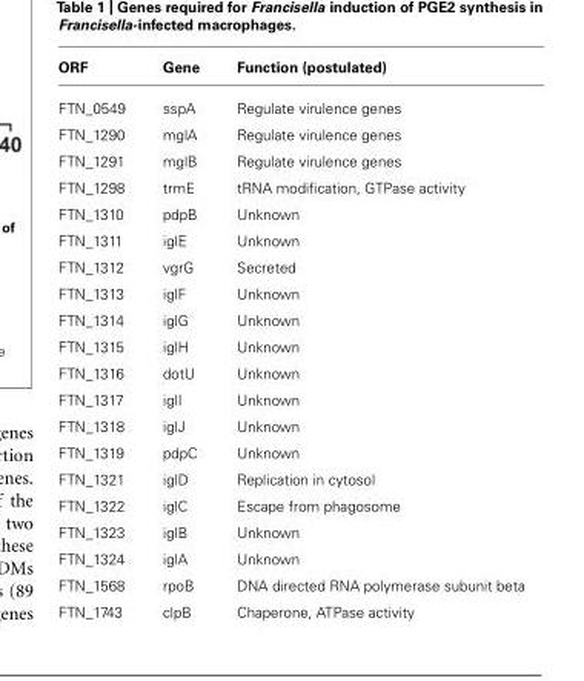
<table><thead><tr><td>ORF</td><td>Gene</td><td>Function (postulated)</td></tr></thead><tbody><tr><td>FTN_0549</td><td>sspA</td><td>Regulate virulence genes</td></tr><tr><td>FTN_1290</td><td>mglA</td><td>Regulate virulence genes</td></tr><tr><td>FTN_1291</td><td>mglB</td><td>Regulate virulence genes</td></tr><tr><td>FTN_1298</td><td>trmE</td><td>tRNA modification, GTPase activity</td></tr><tr><td>FTN_1310</td><td>pdpB</td><td>Unknown</td></tr><tr><td>FTN_1311</td><td>iglE</td><td>Unknown</td></tr><tr><td>FTN_1312</td><td>vgrG</td><td>Secreted</td></tr><tr><td>FTN_1313</td><td>iglF</td><td>Unknown</td></tr><tr><td>FTN_1314</td><td>iglG</td><td>Unknown</td></tr><tr><td>FTN_1315</td><td>iglH</td><td>Unknown</td></tr><tr><td>FTN_1316</td><td>dotU</td><td>Unknown</td></tr><tr><td>FTN_1317</td><td>iglI</td><td>Unknown</td></tr><tr><td>FTN_1318</td><td>iglJ</td><td>Unknown</td></tr><tr><td>FTN_1319</td><td>pdpC</td><td>Unknown</td></tr><tr><td>FTN_1321</td><td>iglD</td><td>Replication in cytosol</td></tr><tr><td>FTN_1322</td><td>iglC</td><td>Escape from phagosome</td></tr><tr><td>FTN_1323</td><td>iglB</td><td>Unknown</td></tr><tr><td>FTN_1324</td><td>iglA</td><td>Unknown</td></tr><tr><td>FTN_1568</td><td>rpoB</td><td>DNA directed RNA polymerase subunit beta</td></tr><tr><td>FTN_1743</td><td>clpB</td><td>Chaperone, ATPase activity</td></tr></tbody></table>